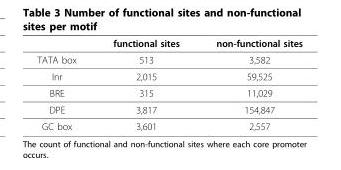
<table><thead><tr><td></td><td>functional sites</td><td>non-functional sites</td></tr></thead><tbody><tr><td>TATA box</td><td>513</td><td>3,582</td></tr><tr><td>Inr</td><td>2,015</td><td>59,525</td></tr><tr><td>BRE</td><td>315</td><td>11,029</td></tr><tr><td>DPE</td><td>3,817</td><td>154,847</td></tr><tr><td>GC box</td><td>3,601</td><td>2,557</td></tr></tbody></table>